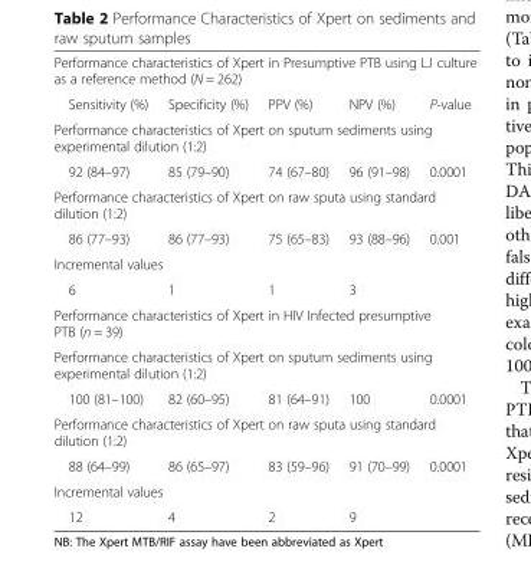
<table><tbody><tr><td colspan="5">Performance characteristics of Xpert in Presumptive PTB using LJ culture as a reference method (N = 262)</td></tr><tr><td>Sensitivity (%)</td><td>Specificity (%)</td><td>PPV (%)</td><td>NPV (%)</td><td>P-value</td></tr><tr><td colspan="5">Performance characteristics of Xpert on sputum sediments using experimental dilution (1:2)</td></tr><tr><td>92 (84–97)</td><td>85 (79–90)</td><td>74 (67–80)</td><td>96 (91–98)</td><td>0.0001</td></tr><tr><td colspan="5">Performance characteristics of Xpert on raw sputa using standard dilution (1:2)</td></tr><tr><td>86 (77–93)</td><td>86 (77–93)</td><td>75 (65–83)</td><td>93 (88–96)</td><td>0.001</td></tr><tr><td colspan="5">Incremental values</td></tr><tr><td>6</td><td>1</td><td>1</td><td>3</td><td></td></tr><tr><td colspan="5">Performance characteristics of Xpert in HIV Infected presumptive PTB (n = 39)</td></tr><tr><td colspan="5">Performance characteristics of Xpert on sputum sediments using experimental dilution (1:2)</td></tr><tr><td>100 (81–100)</td><td>82 (60–95)</td><td>81 (64–91)</td><td>100</td><td>0.0001</td></tr><tr><td colspan="5">Performance characteristics of Xpert on raw sputa using standard dilution (1:2)</td></tr><tr><td>88 (64–99)</td><td>86 (65–97)</td><td>83 (59–96)</td><td>91 (70–99)</td><td>0.0001</td></tr><tr><td colspan="5">Incremental values</td></tr><tr><td>12</td><td>4</td><td>2</td><td>9</td><td></td></tr></tbody></table>